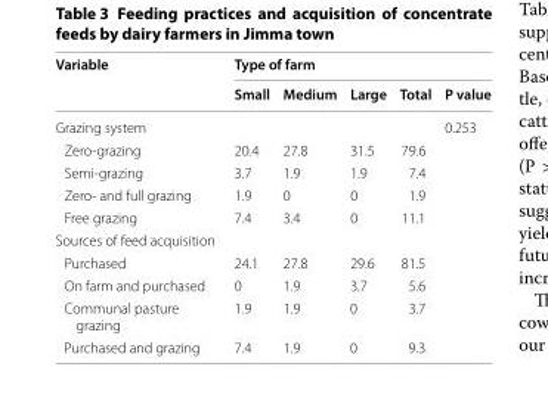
<table><thead><tr><td rowspan="2">Variable</td><td colspan="5">Type of farm</td></tr><tr><td>Small</td><td>Medium</td><td>Large</td><td>Total</td><td>P value</td></tr></thead><tbody><tr><td>Grazing system</td><td></td><td></td><td></td><td></td><td>0.253</td></tr><tr><td>Zero-grazing</td><td>20.4</td><td>27.8</td><td>31.5</td><td>79.6</td><td></td></tr><tr><td>Semi-grazing</td><td>3.7</td><td>1.9</td><td>1.9</td><td>7.4</td><td></td></tr><tr><td>Zero- and full grazing</td><td>1.9</td><td>0</td><td>0</td><td>1.9</td><td></td></tr><tr><td>Free grazing</td><td>7.4</td><td>3.4</td><td>0</td><td>11.1</td><td></td></tr><tr><td colspan="6">Sources of feed acquisition</td></tr><tr><td>Purchased</td><td>24.1</td><td>27.8</td><td>29.6</td><td>81.5</td><td></td></tr><tr><td>On farm and purchased</td><td>0</td><td>1.9</td><td>3.7</td><td>5.6</td><td></td></tr><tr><td>Communal pasture grazing</td><td>1.9</td><td>1.9</td><td>0</td><td>3.7</td><td></td></tr><tr><td>Purchased and grazing</td><td>7.4</td><td>1.9</td><td>0</td><td>9.3</td><td></td></tr></tbody></table>